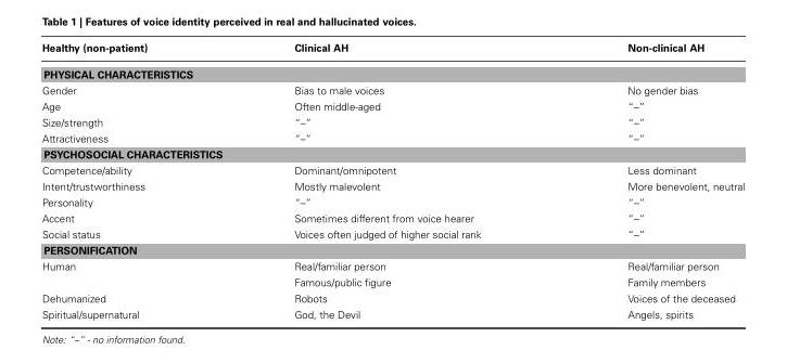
<table><thead><tr><td>Healthy (non-patient)</td><td>Clinical AH</td><td>Non-clinical AH</td></tr></thead><tbody><tr><td colspan="3">PHYSICAL CHARACTERISTICS</td></tr><tr><td>Gender</td><td>Bias to male voices</td><td>No gender bias</td></tr><tr><td>Age</td><td>Often middle-aged</td><td>“–”</td></tr><tr><td>Size/strength</td><td>“–”</td><td>“–”</td></tr><tr><td>Attractiveness</td><td>“–”</td><td>“–”</td></tr><tr><td colspan="3">PSYCHOSOCIAL CHARACTERISTICS</td></tr><tr><td>Competence/ability</td><td>Dominant/omnipotent</td><td>Less dominant</td></tr><tr><td>Intent/trustworthiness</td><td>Mostly malevolent</td><td>More benevolent, neutral</td></tr><tr><td>Personality</td><td>“–”</td><td>“–”</td></tr><tr><td>Accent</td><td>Sometimes different from voice hearer</td><td>“–”</td></tr><tr><td>Social status</td><td>Voices often judged of higher social rank</td><td>“–”</td></tr><tr><td colspan="3">PERSONIFICATION</td></tr><tr><td rowspan="2">Human</td><td>Real/familiar person</td><td>Real/familiar person</td></tr><tr><td>Famous/public figure</td><td>Family members</td></tr><tr><td>Dehumanized</td><td>Robots</td><td>Voices of the deceased</td></tr><tr><td>Spiritual/supernatural</td><td>God, the Devil</td><td>Angels, spirits</td></tr></tbody></table>